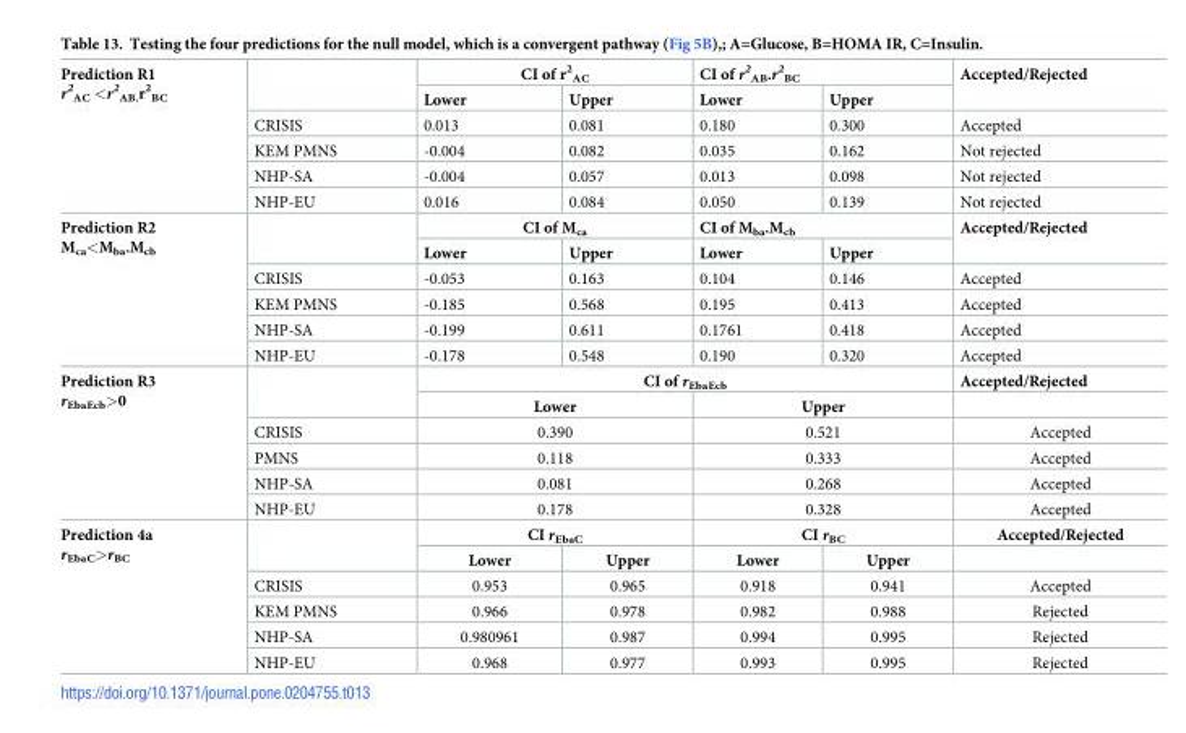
<table><tbody><tr><td rowspan="6">Prediction R1 r<sup>2</sup> <sub>AC</sub> &lt;r<sup>2</sup> <sub>AB.</sub>r<sup>2</sup> <sub>BC</sub></td><td rowspan="2"></td><td colspan="2">CI of r<sup>2</sup> <sub>AC</sub></td><td colspan="2">CI of r<sup>2</sup> <sub>AB</sub>.r<sup>2</sup> <sub>BC</sub></td><td rowspan="2">Accepted/Rejected</td></tr><tr><td>Lower</td><td>Upper</td><td>Lower</td><td>Upper</td></tr><tr><td>CRISIS</td><td>0.013</td><td>0.081</td><td>0.180</td><td>0.300</td><td>Accepted</td></tr><tr><td>KEM PMNS</td><td>-0.004</td><td>0.082</td><td>0.035</td><td>0.162</td><td>Not rejected</td></tr><tr><td>NHP-SA</td><td>-0.004</td><td>0.057</td><td>0.013</td><td>0.098</td><td>Not rejected</td></tr><tr><td>NHP-EU</td><td>0.016</td><td>0.084</td><td>0.050</td><td>0.139</td><td>Not rejected</td></tr><tr><td rowspan="6">Prediction R2 M<sub>ca</sub>&lt;M<sub>ba</sub>.M<sub>cb</sub></td><td rowspan="2"></td><td colspan="2">CI of M<sub>ca</sub></td><td colspan="2">CI of M<sub>ba</sub>.M<sub>cb</sub></td><td rowspan="2">Accepted/Rejected</td></tr><tr><td>Lower</td><td>Upper</td><td>Lower</td><td>Upper</td></tr><tr><td>CRISIS</td><td>-0.053</td><td>0.163</td><td>0.104</td><td>0.146</td><td>Accepted</td></tr><tr><td>KEM PMNS</td><td>-0.185</td><td>0.568</td><td>0.195</td><td>0.413</td><td>Accepted</td></tr><tr><td>NHP-SA</td><td>-0.199</td><td>0.611</td><td>0.1761</td><td>0.418</td><td>Accepted</td></tr><tr><td>NHP-EU</td><td>-0.178</td><td>0.548</td><td>0.190</td><td>0.320</td><td>Accepted</td></tr><tr><td rowspan="6">Prediction R3 r<sub>EbaEcb</sub>&gt;0</td><td rowspan="2"></td><td colspan="4">CI of r<sub>EbaEcb</sub></td><td>Accepted/Rejected</td></tr><tr><td colspan="2">Lower</td><td colspan="2">Upper</td><td></td></tr><tr><td>CRISIS</td><td colspan="2">0.390</td><td colspan="2">0.521</td><td>Accepted</td></tr><tr><td>PMNS</td><td colspan="2">0.118</td><td colspan="2">0.333</td><td>Accepted</td></tr><tr><td>NHP-SA</td><td colspan="2">0.081</td><td colspan="2">0.268</td><td>Accepted</td></tr><tr><td>NHP-EU</td><td colspan="2">0.178</td><td colspan="2">0.328</td><td>Accepted</td></tr><tr><td rowspan="6">Prediction 4a r<sub>EbaC</sub>&gt;r<sub>BC</sub></td><td rowspan="2"></td><td colspan="2">CI r<sub>EbaC</sub></td><td colspan="2">CI r<sub>BC</sub></td><td>Accepted/Rejected</td></tr><tr><td>Lower</td><td>Upper</td><td>Lower</td><td>Upper</td><td></td></tr><tr><td>CRISIS</td><td>0.953</td><td>0.965</td><td>0.918</td><td>0.941</td><td>Accepted</td></tr><tr><td>KEM PMNS</td><td>0.966</td><td>0.978</td><td>0.982</td><td>0.988</td><td>Rejected</td></tr><tr><td>NHP-SA</td><td>0.980961</td><td>0.987</td><td>0.994</td><td>0.995</td><td>Rejected</td></tr><tr><td>NHP-EU</td><td>0.968</td><td>0.977</td><td>0.993</td><td>0.995</td><td>Rejected</td></tr></tbody></table>